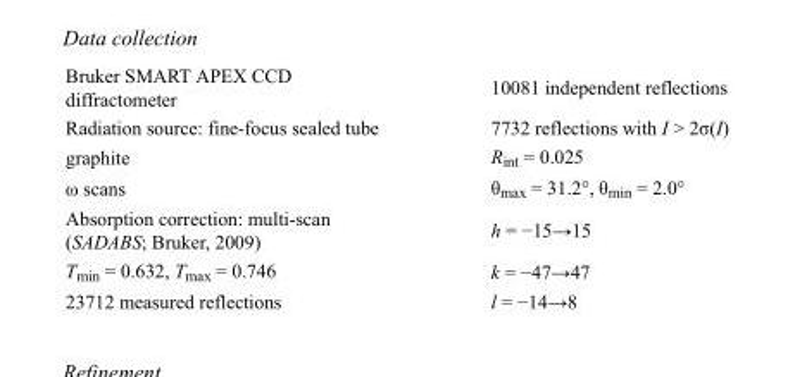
<table><tbody><tr><td>Bruker SMART APEX CCD diffractometer</td><td>10081 independent reflections</td></tr><tr><td>Radiation source: fine-focus sealed tube</td><td>7732 reflections with I &gt; 2σ(I)</td></tr><tr><td>graphite</td><td>R<sub>int</sub> = 0.025</td></tr><tr><td>ω scans</td><td>θ<sub>max</sub> = 31.2°, θ<sub>min</sub> = 2.0°</td></tr><tr><td>Absorption correction: multi-scan (SADABS; Bruker, 2009)</td><td>h = −15→15</td></tr><tr><td>T<sub>min</sub> = 0.632, T<sub>max</sub> = 0.746</td><td>k = −47→47</td></tr><tr><td>23712 measured reflections</td><td>l = −14→8</td></tr></tbody></table>